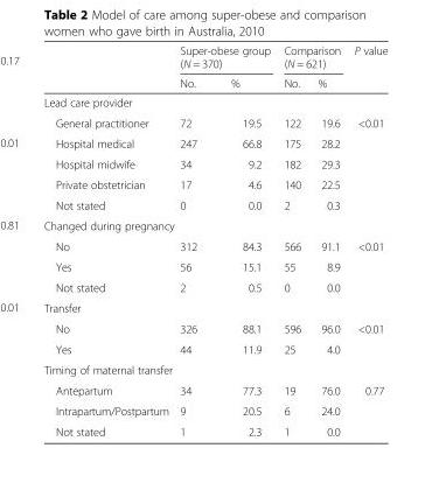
<table><thead><tr><td rowspan="2"></td><td colspan="2">Super-obese group (N = 370)</td><td colspan="2">Comparison (N = 621)</td><td rowspan="2">P value</td></tr><tr><td>No.</td><td>%</td><td>No.</td><td>%</td></tr></thead><tbody><tr><td colspan="6">Lead care provider</td></tr><tr><td>General practitioner</td><td>72</td><td>19.5</td><td>122</td><td>19.6</td><td rowspan="4">&lt;0.01</td></tr><tr><td>Hospital medical</td><td>247</td><td>66.8</td><td>175</td><td>28.2</td></tr><tr><td>Hospital midwife</td><td>34</td><td>9.2</td><td>182</td><td>29.3</td></tr><tr><td>Private obstetrician</td><td>17</td><td>4.6</td><td>140</td><td>22.5</td></tr><tr><td>Not stated</td><td>0</td><td>0.0</td><td>2</td><td>0.3</td><td></td></tr><tr><td colspan="6">Changed during pregnancy</td></tr><tr><td>No</td><td>312</td><td>84.3</td><td>566</td><td>91.1</td><td rowspan="2">&lt;0.01</td></tr><tr><td>Yes</td><td>56</td><td>15.1</td><td>55</td><td>8.9</td></tr><tr><td>Not stated</td><td>2</td><td>0.5</td><td>0</td><td>0.0</td><td></td></tr><tr><td colspan="6">Transfer</td></tr><tr><td>No</td><td>326</td><td>88.1</td><td>596</td><td>96.0</td><td rowspan="2">&lt;0.01</td></tr><tr><td>Yes</td><td>44</td><td>11.9</td><td>25</td><td>4.0</td></tr><tr><td colspan="6">Timing of maternal transfer</td></tr><tr><td>Antepartum</td><td>34</td><td>77.3</td><td>19</td><td>76.0</td><td rowspan="2">0.77</td></tr><tr><td>Intrapartum/Postpartum</td><td>9</td><td>20.5</td><td>6</td><td>24.0</td></tr><tr><td>Not stated</td><td>1</td><td>2.3</td><td>1</td><td>0.0</td><td></td></tr></tbody></table>